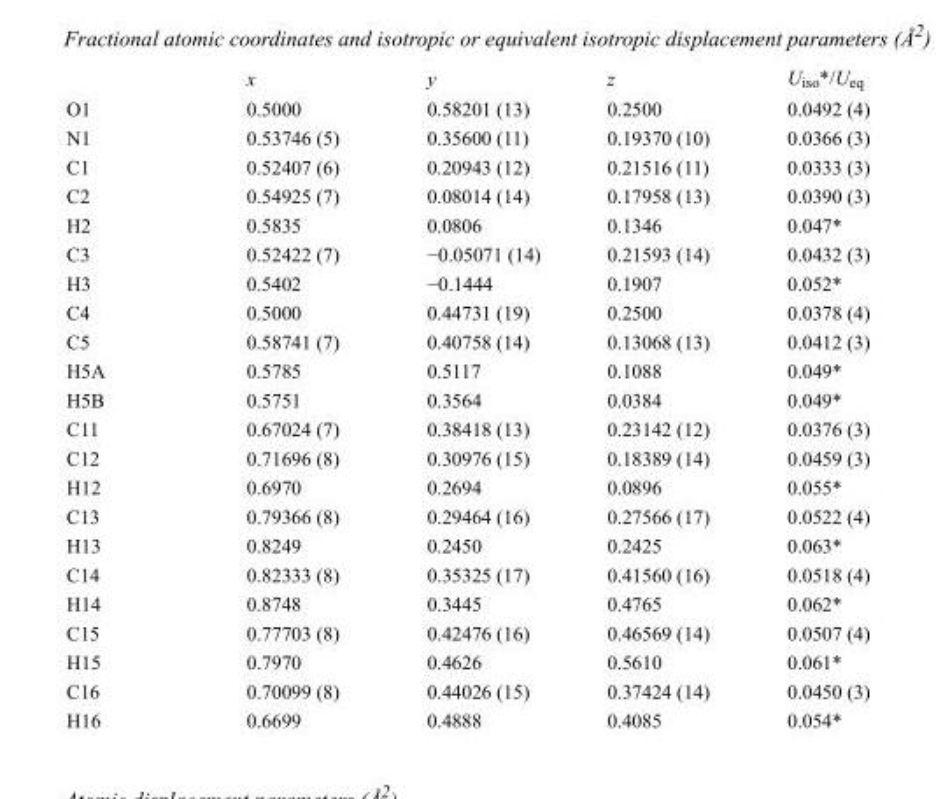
<table><thead><tr><td></td><td>x</td><td>y</td><td>z</td><td>U<sub>iso</sub>*/U<sub>eq</sub></td></tr></thead><tbody><tr><td>O1</td><td>0.5000</td><td>0.58201 (13)</td><td>0.2500</td><td>0.0492 (4)</td></tr><tr><td>N1</td><td>0.53746 (5)</td><td>0.35600 (11)</td><td>0.19370 (10)</td><td>0.0366 (3)</td></tr><tr><td>C1</td><td>0.52407 (6)</td><td>0.20943 (12)</td><td>0.21516 (11)</td><td>0.0333 (3)</td></tr><tr><td>C2</td><td>0.54925 (7)</td><td>0.08014 (14)</td><td>0.17958 (13)</td><td>0.0390 (3)</td></tr><tr><td>H2</td><td>0.5835</td><td>0.0806</td><td>0.1346</td><td>0.047*</td></tr><tr><td>C3</td><td>0.52422 (7)</td><td>−0.05071 (14)</td><td>0.21593 (14)</td><td>0.0432 (3)</td></tr><tr><td>H3</td><td>0.5402</td><td>−0.1444</td><td>0.1907</td><td>0.052*</td></tr><tr><td>C4</td><td>0.5000</td><td>0.44731 (19)</td><td>0.2500</td><td>0.0378 (4)</td></tr><tr><td>C5</td><td>0.58741 (7)</td><td>0.40758 (14)</td><td>0.13068 (13)</td><td>0.0412 (3)</td></tr><tr><td>H5A</td><td>0.5785</td><td>0.5117</td><td>0.1088</td><td>0.049*</td></tr><tr><td>H5B</td><td>0.5751</td><td>0.3564</td><td>0.0384</td><td>0.049*</td></tr><tr><td>C11</td><td>0.67024 (7)</td><td>0.38418 (13)</td><td>0.23142 (12)</td><td>0.0376 (3)</td></tr><tr><td>C12</td><td>0.71696 (8)</td><td>0.30976 (15)</td><td>0.18389 (14)</td><td>0.0459 (3)</td></tr><tr><td>H12</td><td>0.6970</td><td>0.2694</td><td>0.0896</td><td>0.055*</td></tr><tr><td>C13</td><td>0.79366 (8)</td><td>0.29464 (16)</td><td>0.27566 (17)</td><td>0.0522 (4)</td></tr><tr><td>H13</td><td>0.8249</td><td>0.2450</td><td>0.2425</td><td>0.063*</td></tr><tr><td>C14</td><td>0.82333 (8)</td><td>0.35325 (17)</td><td>0.41560 (16)</td><td>0.0518 (4)</td></tr><tr><td>H14</td><td>0.8748</td><td>0.3445</td><td>0.4765</td><td>0.062*</td></tr><tr><td>C15</td><td>0.77703 (8)</td><td>0.42476 (16)</td><td>0.46569 (14)</td><td>0.0507 (4)</td></tr><tr><td>H15</td><td>0.7970</td><td>0.4626</td><td>0.5610</td><td>0.061*</td></tr><tr><td>C16</td><td>0.70099 (8)</td><td>0.44026 (15)</td><td>0.37424 (14)</td><td>0.0450 (3)</td></tr><tr><td>H16</td><td>0.6699</td><td>0.4888</td><td>0.4085</td><td>0.054*</td></tr></tbody></table>